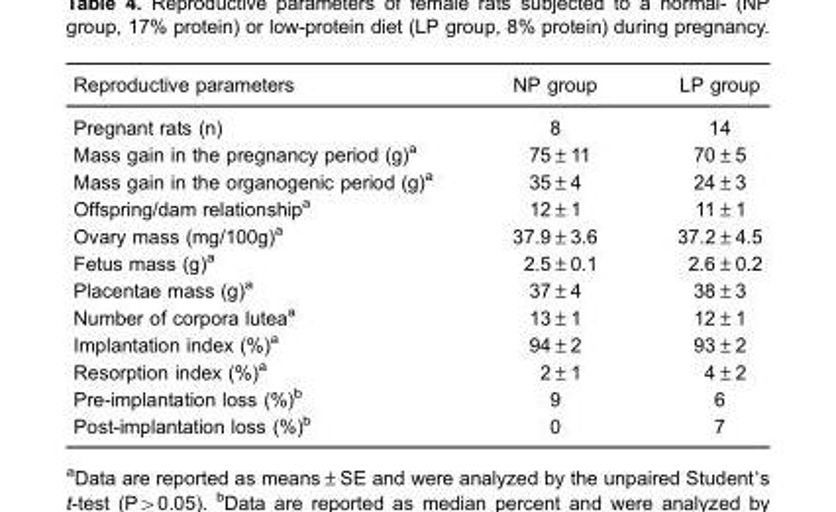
<table><thead><tr><td>Reproductive parameters</td><td>NP group</td><td>LP group</td></tr></thead><tbody><tr><td>Pregnant rats (n)</td><td>8</td><td>14</td></tr><tr><td>Mass gain in the pregnancy period (g)<sup>a</sup></td><td>75±11</td><td>70±5</td></tr><tr><td>Mass gain in the organogenic period (g)<sup>a</sup></td><td>35±4</td><td>24±3</td></tr><tr><td>Offspring/dam relationship<sup>a</sup></td><td>12±1</td><td>11±1</td></tr><tr><td>Ovary mass (mg/100g)<sup>a</sup></td><td>37.9±3.6</td><td>37.2±4.5</td></tr><tr><td>Fetus mass (g)<sup>a</sup></td><td>2.5±0.1</td><td>2.6±0.2</td></tr><tr><td>Placentae mass (g)<sup>a</sup></td><td>37±4</td><td>38±3</td></tr><tr><td>Number of corpora lutea<sup>a</sup></td><td>13±1</td><td>12±1</td></tr><tr><td>Implantation index (%)<sup>a</sup></td><td>94±2</td><td>93±2</td></tr><tr><td>Resorption index (%)<sup>a</sup></td><td>2±1</td><td>4±2</td></tr><tr><td>Pre-implantation loss (%)<sup>b</sup></td><td>9</td><td>6</td></tr><tr><td>Post-implantation loss (%)<sup>b</sup></td><td>0</td><td>7</td></tr></tbody></table>